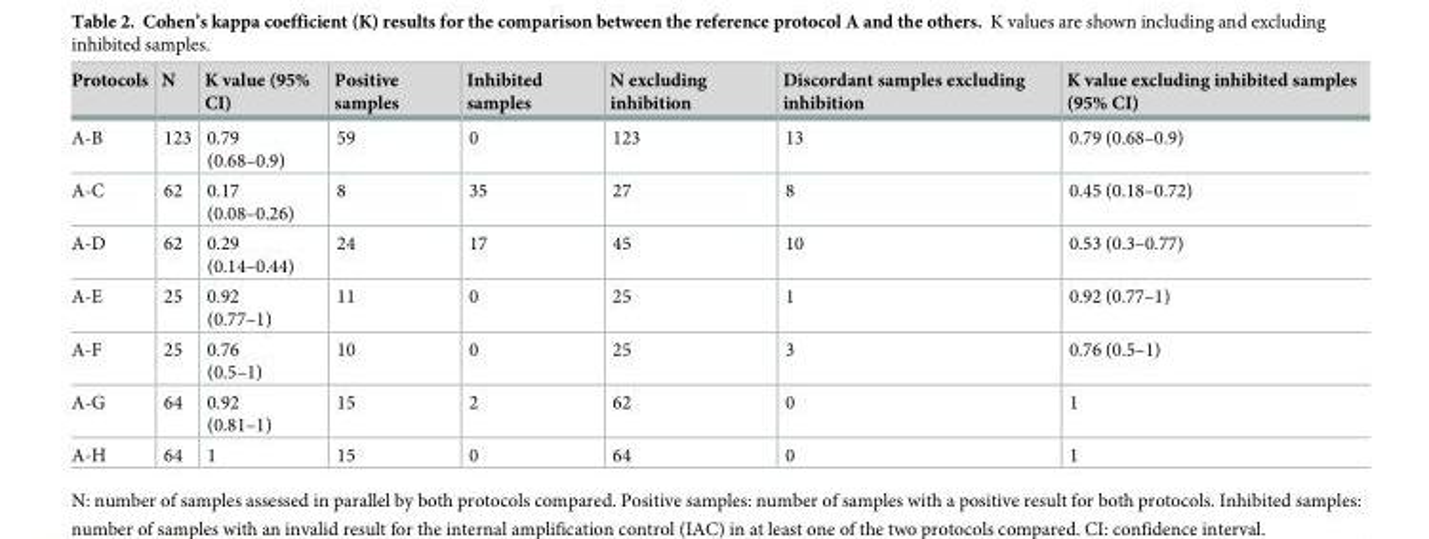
<table><thead><tr><td>Protocols</td><td>N</td><td>K value (95% CI)</td><td>Positive samples</td><td>Inhibited samples</td><td>N excluding inhibition</td><td>Discordant samples excluding inhibition</td><td>K value excluding inhibited samples (95% CI)</td></tr></thead><tbody><tr><td>A-B</td><td>123</td><td>0.79 (0.68–0.9)</td><td>59</td><td>0</td><td>123</td><td>13</td><td>0.79 (0.68–0.9)</td></tr><tr><td>A-C</td><td>62</td><td>0.17 (0.08–0.26)</td><td>8</td><td>35</td><td>27</td><td>8</td><td>0.45 (0.18–0.72)</td></tr><tr><td>A-D</td><td>62</td><td>0.29 (0.14–0.44)</td><td>24</td><td>17</td><td>45</td><td>10</td><td>0.53 (0.3–0.77)</td></tr><tr><td>A-E</td><td>25</td><td>0.92 (0.77–1)</td><td>11</td><td>0</td><td>25</td><td>1</td><td>0.92 (0.77–1)</td></tr><tr><td>A-F</td><td>25</td><td>0.76 (0.5–1)</td><td>10</td><td>0</td><td>25</td><td>3</td><td>0.76 (0.5–1)</td></tr><tr><td>A-G</td><td>64</td><td>0.92 (0.81–1)</td><td>15</td><td>2</td><td>62</td><td>0</td><td>1</td></tr><tr><td>A-H</td><td>64</td><td>1</td><td>15</td><td>0</td><td>64</td><td>0</td><td>1</td></tr></tbody></table>